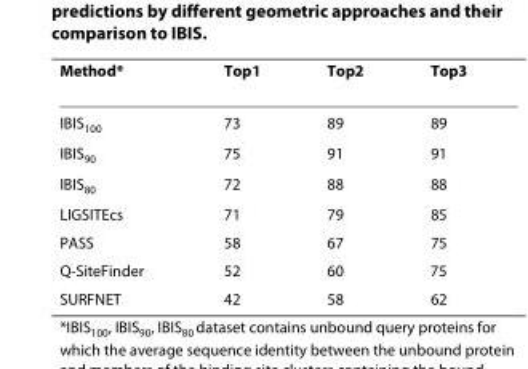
<table><thead><tr><td>Method*</td><td>Top1</td><td>Top2</td><td>Top3</td></tr></thead><tbody><tr><td>IBIS<sub>100</sub></td><td>73</td><td>89</td><td>89</td></tr><tr><td>IBIS<sub>90</sub></td><td>75</td><td>91</td><td>91</td></tr><tr><td>IBIS<sub>80</sub></td><td>72</td><td>88</td><td>88</td></tr><tr><td>LIGSITEcs</td><td>71</td><td>79</td><td>85</td></tr><tr><td>PASS</td><td>58</td><td>67</td><td>75</td></tr><tr><td>Q-SiteFinder</td><td>52</td><td>60</td><td>75</td></tr><tr><td>SURFNET</td><td>42</td><td>58</td><td>62</td></tr></tbody></table>